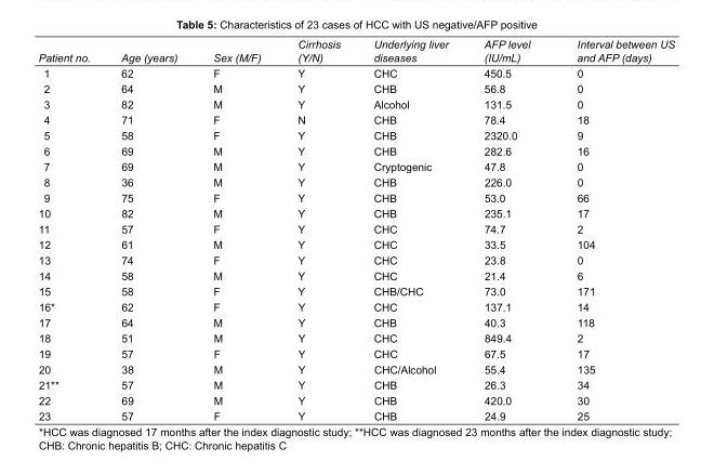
<table><tbody><tr><td>Patient no.</td><td>Age (years)</td><td>Sex (M/F)</td><td>Cirrhosis (Y/N)</td><td>Underlying liver diseases</td><td>AFP level (IU/mL)</td><td>Interval between US and AFP (days)</td></tr><tr><td>1</td><td>62</td><td>F</td><td>Y</td><td>CHC</td><td>450.5</td><td>0</td></tr><tr><td>2</td><td>64</td><td>M</td><td>Y</td><td>CHB</td><td>56.8</td><td>0</td></tr><tr><td>3</td><td>82</td><td>M</td><td>Y</td><td>Alcohol</td><td>131.5</td><td>0</td></tr><tr><td>4</td><td>71</td><td>F</td><td>N</td><td>CHB</td><td>78.4</td><td>18</td></tr><tr><td>5</td><td>58</td><td>F</td><td>Y</td><td>CHB</td><td>2320.0</td><td>9</td></tr><tr><td>6</td><td>69</td><td>M</td><td>Y</td><td>CHB</td><td>282.6</td><td>16</td></tr><tr><td>7</td><td>69</td><td>M</td><td>Y</td><td>Cryptogenic</td><td>47.8</td><td>0</td></tr><tr><td>8</td><td>36</td><td>M</td><td>Y</td><td>CHB</td><td>226.0</td><td>0</td></tr><tr><td>9</td><td>75</td><td>F</td><td>Y</td><td>CHB</td><td>53.0</td><td>66</td></tr><tr><td>10</td><td>82</td><td>M</td><td>Y</td><td>CHB</td><td>235.1</td><td>17</td></tr><tr><td>11</td><td>57</td><td>F</td><td>Y</td><td>CHC</td><td>74.7</td><td>2</td></tr><tr><td>12</td><td>61</td><td>M</td><td>Y</td><td>CHC</td><td>33.5</td><td>104</td></tr><tr><td>13</td><td>74</td><td>F</td><td>Y</td><td>CHC</td><td>23.8</td><td>0</td></tr><tr><td>14</td><td>58</td><td>M</td><td>Y</td><td>CHC</td><td>21.4</td><td>6</td></tr><tr><td>15</td><td>58</td><td>F</td><td>Y</td><td>CHB/CHC</td><td>73.0</td><td>171</td></tr><tr><td>16*</td><td>62</td><td>F</td><td>Y</td><td>CHC</td><td>137.1</td><td>14</td></tr><tr><td>17</td><td>64</td><td>M</td><td>Y</td><td>CHB</td><td>40.3</td><td>118</td></tr><tr><td>18</td><td>51</td><td>M</td><td>Y</td><td>CHC</td><td>849.4</td><td>2</td></tr><tr><td>19</td><td>57</td><td>F</td><td>Y</td><td>CHC</td><td>67.5</td><td>17</td></tr><tr><td>20</td><td>38</td><td>M</td><td>Y</td><td>CHC/Alcohol</td><td>55.4</td><td>135</td></tr><tr><td>21**</td><td>57</td><td>M</td><td>Y</td><td>CHB</td><td>26.3</td><td>34</td></tr><tr><td>22</td><td>69</td><td>M</td><td>Y</td><td>CHB</td><td>420.0</td><td>30</td></tr><tr><td>23</td><td>57</td><td>F</td><td>Y</td><td>CHB</td><td>24.9</td><td>25</td></tr></tbody></table>